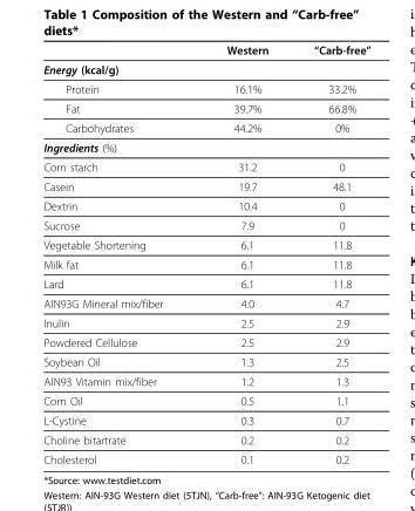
<table><thead><tr><td></td><td>Western</td><td>“Carb-free”</td></tr></thead><tbody><tr><td colspan="3">Energy (kcal/g)</td></tr><tr><td>Protein</td><td>16.1%</td><td>33.2%</td></tr><tr><td>Fat</td><td>39.7%</td><td>66.8%</td></tr><tr><td>Carbohydrates</td><td>44.2%</td><td>0%</td></tr><tr><td colspan="3">Ingredients (%)</td></tr><tr><td>Corn starch</td><td>31.2</td><td>0</td></tr><tr><td>Casein</td><td>19.7</td><td>48.1</td></tr><tr><td>Dextrin</td><td>10.4</td><td>0</td></tr><tr><td>Sucrose</td><td>7.9</td><td>0</td></tr><tr><td>Vegetable Shortening</td><td>6.1</td><td>11.8</td></tr><tr><td>Milk fat</td><td>6.1</td><td>11.8</td></tr><tr><td>Lard</td><td>6.1</td><td>11.8</td></tr><tr><td>AIN93G Mineral mix/fiber</td><td>4.0</td><td>4.7</td></tr><tr><td>Inulin</td><td>2.5</td><td>2.9</td></tr><tr><td>Powdered Cellulose</td><td>2.5</td><td>2.9</td></tr><tr><td>Soybean Oil</td><td>1.3</td><td>2.5</td></tr><tr><td>AIN93 Vitamin mix/fiber</td><td>1.2</td><td>1.3</td></tr><tr><td>Corn Oil</td><td>0.5</td><td>1.1</td></tr><tr><td>L-Cystine</td><td>0.3</td><td>0.7</td></tr><tr><td>Choline bitartrate</td><td>0.2</td><td>0.2</td></tr><tr><td>Cholesterol</td><td>0.1</td><td>0.2</td></tr></tbody></table>